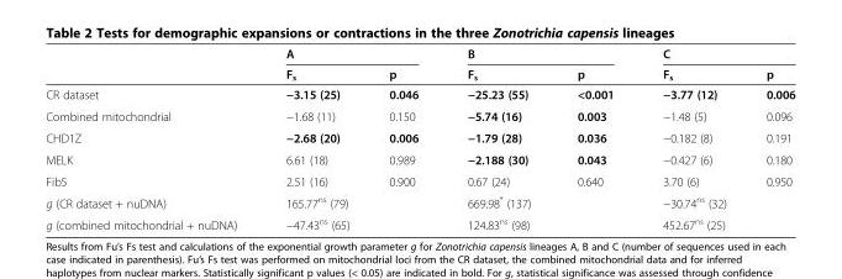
<table><thead><tr><td rowspan="2"></td><td colspan="2">A</td><td colspan="2">B</td><td colspan="2">C</td></tr><tr><td>F<sub>s</sub></td><td>p</td><td>F<sub>s</sub></td><td>p</td><td>F<sub>s</sub></td><td>p</td></tr></thead><tbody><tr><td>CR dataset</td><td>−3.15 (25)</td><td>0.046</td><td>−25.23 (55)</td><td>&lt;0.001</td><td>−3.77 (12)</td><td>0.006</td></tr><tr><td>Combined mitochondrial</td><td>−1.68 (11)</td><td>0.150</td><td>−5.74 (16)</td><td>0.003</td><td>−1.48 (5)</td><td>0.096</td></tr><tr><td>CHD1Z</td><td>−2.68 (20)</td><td>0.006</td><td>−1.79 (28)</td><td>0.036</td><td>−0.182 (8)</td><td>0.191</td></tr><tr><td>MELK</td><td>6.61 (18)</td><td>0.989</td><td>−2.188 (30)</td><td>0.043</td><td>−0.427 (6)</td><td>0.180</td></tr><tr><td>Fib5</td><td>2.51 (16)</td><td>0.900</td><td>0.67 (24)</td><td>0.640</td><td>3.70 (6)</td><td>0.950</td></tr><tr><td>g (CR dataset + nuDNA)</td><td colspan="2">165.77<sup>ns</sup> (79)</td><td colspan="2">669.98* (137)</td><td colspan="2">−30.74<sup>ns</sup> (32)</td></tr><tr><td>g (combined mitochondrial + nuDNA)</td><td colspan="2">−47.43<sup>ns</sup> (65)</td><td colspan="2">124.83<sup>ns</sup> (98)</td><td colspan="2">452.67<sup>ns</sup> (25)</td></tr></tbody></table>